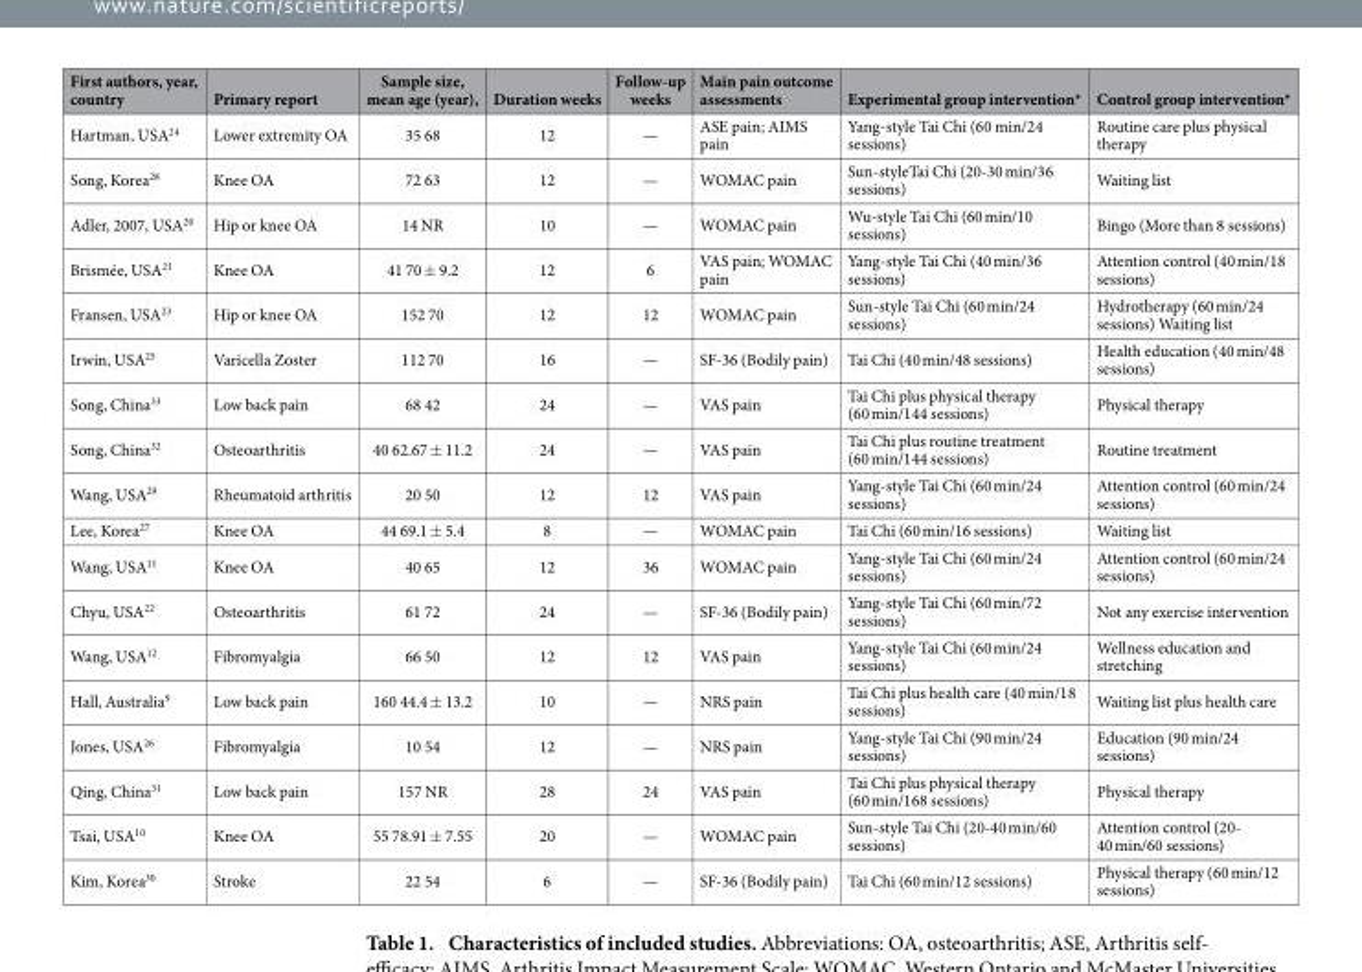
<table><thead><tr><td>First authors, year, country</td><td>Primary report</td><td>Sample size, mean age (year),</td><td>Duration weeks</td><td>Follow-up weeks</td><td>Main pain outcome assessments</td><td>Experimental group intervention*</td><td>Control group intervention*</td></tr></thead><tbody><tr><td>Hartman, USA<sup>24</sup></td><td>Lower extremity OA</td><td>35 68</td><td>12</td><td>—</td><td>ASE pain; AIMS pain</td><td>Yang-style Tai Chi (60 min/24 sessions)</td><td>Routine care plus physical therapy</td></tr><tr><td>Song, Korea<sup>28</sup></td><td>Knee OA</td><td>72 63</td><td>12</td><td>—</td><td>WOMAC pain</td><td>Sun-styleTai Chi (20-30 min/36 sessions)</td><td>Waiting list</td></tr><tr><td>Adler, 2007, USA<sup>20</sup></td><td>Hip or knee OA</td><td>14 NR</td><td>10</td><td>—</td><td>WOMAC pain</td><td>Wu-style Tai Chi (60 min/10 sessions)</td><td>Bingo (More than 8 sessions)</td></tr><tr><td>Brismée, USA<sup>21</sup></td><td>Knee OA</td><td>41 70 ± 9.2</td><td>12</td><td>6</td><td>VAS pain; WOMAC pain</td><td>Yang-style Tai Chi (40 min/36 sessions)</td><td>Attention control (40 min/18 sessions)</td></tr><tr><td>Fransen, USA<sup>23</sup></td><td>Hip or knee OA</td><td>152 70</td><td>12</td><td>12</td><td>WOMAC pain</td><td>Sun-style Tai Chi (60 min/24 sessions)</td><td>Hydrotherapy (60 min/24 sessions) Waiting list</td></tr><tr><td>Irwin, USA<sup>25</sup></td><td>Varicella Zoster</td><td>112 70</td><td>16</td><td>—</td><td>SF-36 (Bodily pain)</td><td>Tai Chi (40 min/48 sessions)</td><td>Health education (40 min/48 sessions)</td></tr><tr><td>Song, China<sup>33</sup></td><td>Low back pain</td><td>68 42</td><td>24</td><td>—</td><td>VAS pain</td><td>Tai Chi plus physical therapy (60 min/144 sessions)</td><td>Physical therapy</td></tr><tr><td>Song, China<sup>32</sup></td><td>Osteoarthritis</td><td>40 62.67 ± 11.2</td><td>24</td><td>—</td><td>VAS pain</td><td>Tai Chi plus routine treatment (60 min/144 sessions)</td><td>Routine treatment</td></tr><tr><td>Wang, USA<sup>29</sup></td><td>Rheumatoid arthritis</td><td>20 50</td><td>12</td><td>12</td><td>VAS pain</td><td>Yang-style Tai Chi (60 min/24 sessions)</td><td>Attention control (60 min/24 sessions)</td></tr><tr><td>Lee, Korea<sup>27</sup></td><td>Knee OA</td><td>44 69.1 ± 5.4</td><td>8</td><td>—</td><td>WOMAC pain</td><td>Tai Chi (60 min/16 sessions)</td><td>Waiting list</td></tr><tr><td>Wang, USA<sup>11</sup></td><td>Knee OA</td><td>40 65</td><td>12</td><td>36</td><td>WOMAC pain</td><td>Yang-style Tai Chi (60 min/24 sessions)</td><td>Attention control (60 min/24 sessions)</td></tr><tr><td>Chyu, USA<sup>22</sup></td><td>Osteoarthritis</td><td>61 72</td><td>24</td><td>—</td><td>SF-36 (Bodily pain)</td><td>Yang-style Tai Chi (60 min/72 sessions)</td><td>Not any exercise intervention</td></tr><tr><td>Wang, USA<sup>12</sup></td><td>Fibromyalgia</td><td>66 50</td><td>12</td><td>12</td><td>VAS pain</td><td>Yang-style Tai Chi (60 min/24 sessions)</td><td>Wellness education and stretching</td></tr><tr><td>Hall, Australia<sup>9</sup></td><td>Low back pain</td><td>160 44.4 ± 13.2</td><td>10</td><td>—</td><td>NRS pain</td><td>Tai Chi plus health care (40 min/18 sessions)</td><td>Waiting list plus health care</td></tr><tr><td>Jones, USA<sup>26</sup></td><td>Fibromyalgia</td><td>10 54</td><td>12</td><td>—</td><td>NRS pain</td><td>Yang-style Tai Chi (90 min/24 sessions)</td><td>Education (90 min/24 sessions)</td></tr><tr><td>Qing, China<sup>31</sup></td><td>Low back pain</td><td>157 NR</td><td>28</td><td>24</td><td>VAS pain</td><td>Tai Chi plus physical therapy (60 min/168 sessions)</td><td>Physical therapy</td></tr><tr><td>Tsai, USA<sup>10</sup></td><td>Knee OA</td><td>55 78.91 ± 7.55</td><td>20</td><td>—</td><td>WOMAC pain</td><td>Sun-style Tai Chi (20-40 min/60 sessions)</td><td>Attention control (20- 40 min/60 sessions)</td></tr><tr><td>Kim, Korea<sup>30</sup></td><td>Stroke</td><td>22 54</td><td>6</td><td>—</td><td>SF-36 (Bodily pain)</td><td>Tai Chi (60 min/12 sessions)</td><td>Physical therapy (60 min/12 sessions)</td></tr></tbody></table>